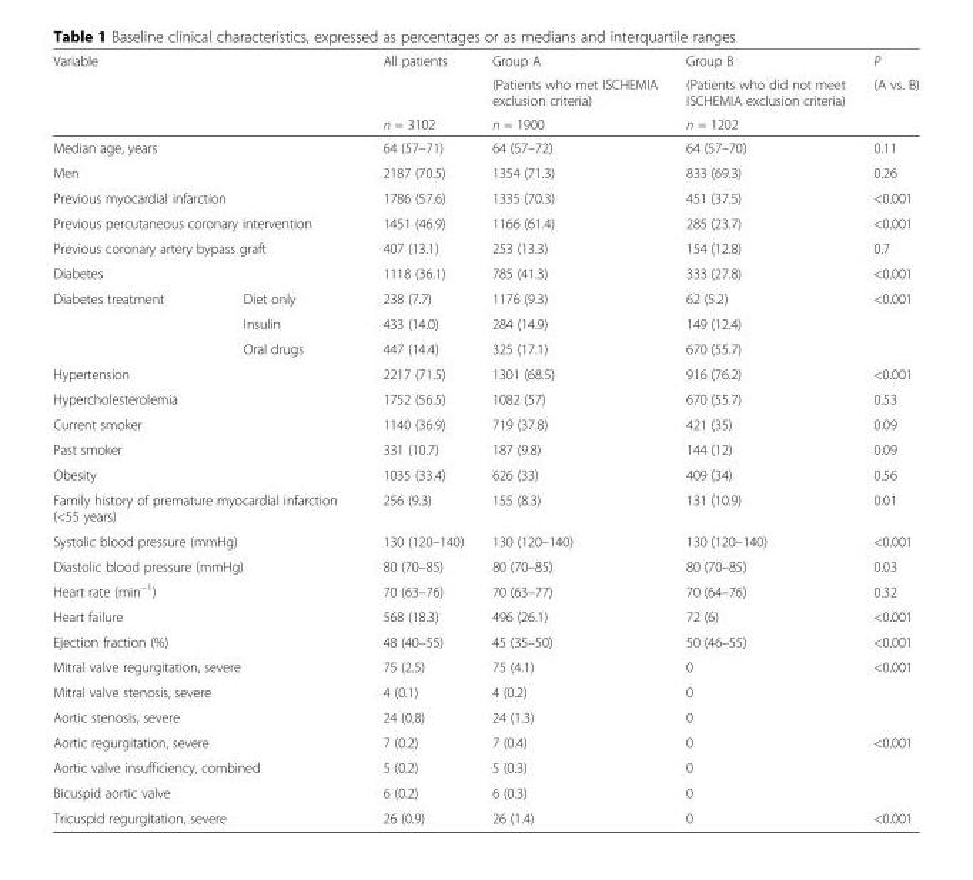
<table><thead><tr><td rowspan="3" colspan="2">Variable</td><td rowspan="3">All patients n = 3102</td><td rowspan="3">Group A (Patients who met ISCHEMIA exclusion criteria) n = 1900</td><td rowspan="3">Group B (Patients who did not meet ISCHEMIA exclusion criteria) n = 1202</td><td rowspan="3">P (A vs. B)</td></tr><tr></tr><tr></tr></thead><tbody><tr><td colspan="2">Median age, years</td><td>64 (57–71)</td><td>64 (57–72)</td><td>64 (57–70)</td><td>0.11</td></tr><tr><td colspan="2">Men</td><td>2187 (70.5)</td><td>1354 (71.3)</td><td>833 (69.3)</td><td>0.26</td></tr><tr><td colspan="2">Previous myocardial infarction</td><td>1786 (57.6)</td><td>1335 (70.3)</td><td>451 (37.5)</td><td>&lt;0.001</td></tr><tr><td colspan="2">Previous percutaneous coronary intervention</td><td>1451 (46.9)</td><td>1166 (61.4)</td><td>285 (23.7)</td><td>&lt;0.001</td></tr><tr><td colspan="2">Previous coronary artery bypass graft</td><td>407 (13.1)</td><td>253 (13.3)</td><td>154 (12.8)</td><td>0.7</td></tr><tr><td colspan="2">Diabetes</td><td>1118 (36.1)</td><td>785 (41.3)</td><td>333 (27.8)</td><td>&lt;0.001</td></tr><tr><td rowspan="3">Diabetes treatment</td><td>Diet only</td><td>238 (7.7)</td><td>1176 (9.3)</td><td>62 (5.2)</td><td rowspan="3">&lt;0.001</td></tr><tr><td>Insulin</td><td>433 (14.0)</td><td>284 (14.9)</td><td>149 (12.4)</td></tr><tr><td>Oral drugs</td><td>447 (14.4)</td><td>325 (17.1)</td><td>670 (55.7)</td></tr><tr><td colspan="2">Hypertension</td><td>2217 (71.5)</td><td>1301 (68.5)</td><td>916 (76.2)</td><td>&lt;0.001</td></tr><tr><td colspan="2">Hypercholesterolemia</td><td>1752 (56.5)</td><td>1082 (57)</td><td>670 (55.7)</td><td>0.53</td></tr><tr><td colspan="2">Current smoker</td><td>1140 (36.9)</td><td>719 (37.8)</td><td>421 (35)</td><td>0.09</td></tr><tr><td colspan="2">Past smoker</td><td>331 (10.7)</td><td>187 (9.8)</td><td>144 (12)</td><td>0.09</td></tr><tr><td colspan="2">Obesity</td><td>1035 (33.4)</td><td>626 (33)</td><td>409 (34)</td><td>0.56</td></tr><tr><td colspan="2">Family history of premature myocardial infarction (&lt;55 years)</td><td>256 (9.3)</td><td>155 (8.3)</td><td>131 (10.9)</td><td>0.01</td></tr><tr><td colspan="2">Systolic blood pressure (mmHg)</td><td>130 (120–140)</td><td>130 (120–140)</td><td>130 (120–140)</td><td>&lt;0.001</td></tr><tr><td colspan="2">Diastolic blood pressure (mmHg)</td><td>80 (70–85)</td><td>80 (70–85)</td><td>80 (70–85)</td><td>0.03</td></tr><tr><td colspan="2">Heart rate (min<sup>−1</sup>)</td><td>70 (63–76)</td><td>70 (63–77)</td><td>70 (64–76)</td><td>0.32</td></tr><tr><td colspan="2">Heart failure</td><td>568 (18.3)</td><td>496 (26.1)</td><td>72 (6)</td><td>&lt;0.001</td></tr><tr><td colspan="2">Ejection fraction (%)</td><td>48 (40–55)</td><td>45 (35–50)</td><td>50 (46–55)</td><td>&lt;0.001</td></tr><tr><td colspan="2">Mitral valve regurgitation, severe</td><td>75 (2.5)</td><td>75 (4.1)</td><td>0</td><td rowspan="2">&lt;0.001</td></tr><tr><td colspan="2">Mitral valve stenosis, severe</td><td>4 (0.1)</td><td>4 (0.2)</td><td>0</td></tr><tr><td colspan="2">Aortic stenosis, severe</td><td>24 (0.8)</td><td>24 (1.3)</td><td>0</td><td></td></tr><tr><td colspan="2">Aortic regurgitation, severe</td><td>7 (0.2)</td><td>7 (0.4)</td><td>0</td><td>&lt;0.001</td></tr><tr><td colspan="2">Aortic valve insufficiency, combined</td><td>5 (0.2)</td><td>5 (0.3)</td><td>0</td><td rowspan="2"></td></tr><tr><td colspan="2">Bicuspid aortic valve</td><td>6 (0.2)</td><td>6 (0.3)</td><td>0</td></tr><tr><td colspan="2">Tricuspid regurgitation, severe</td><td>26 (0.9)</td><td>26 (1.4)</td><td>0</td><td>&lt;0.001</td></tr></tbody></table>